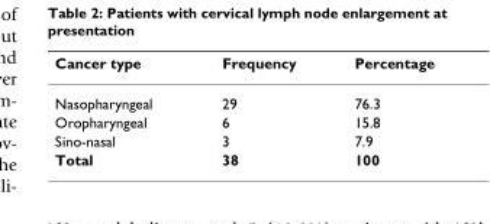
<table><thead><tr><td>Cancer type</td><td>Frequency</td><td>Percentage</td></tr></thead><tbody><tr><td>Nasopharyngeal</td><td>29</td><td>76.3</td></tr><tr><td>Oropharyngeal</td><td>6</td><td>15.8</td></tr><tr><td>Sino-nasal</td><td>3</td><td>7.9</td></tr><tr><td>Total</td><td>38</td><td>100</td></tr></tbody></table>